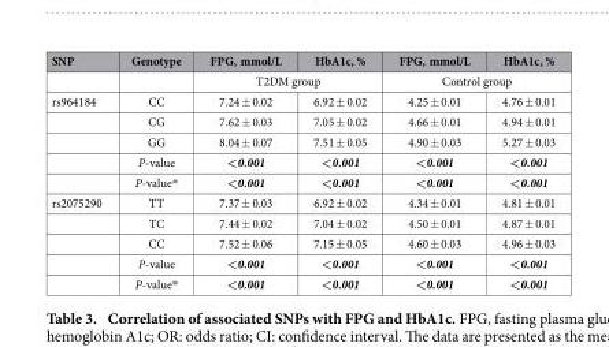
<table><thead><tr><td>SNP</td><td>Genotype</td><td>FPG, mmol/L</td><td>HbA1c, %</td><td>FPG, mmol/L</td><td>HbA1c, %</td></tr></thead><tbody><tr><td></td><td></td><td colspan="2">T2DM group</td><td colspan="2">Control group</td></tr><tr><td rowspan="5">rs964184</td><td>CC</td><td>7.24 ± 0.02</td><td>6.92 ± 0.02</td><td>4.25 ± 0.01</td><td>4.76 ± 0.01</td></tr><tr><td>CG</td><td>7.62 ± 0.03</td><td>7.05 ± 0.02</td><td>4.66 ± 0.01</td><td>4.94 ± 0.01</td></tr><tr><td>GG</td><td>8.04 ± 0.07</td><td>7.51 ± 0.05</td><td>4.90 ± 0.03</td><td>5.27 ± 0.03</td></tr><tr><td>P-value</td><td>&lt;0.001</td><td>&lt;0.001</td><td>&lt;0.001</td><td>&lt;0.001</td></tr><tr><td>P-value*</td><td>&lt;0.001</td><td>&lt;0.001</td><td>&lt;0.001</td><td>&lt;0.001</td></tr><tr><td rowspan="5">rs2075290</td><td>TT</td><td>7.37 ± 0.03</td><td>6.92 ± 0.02</td><td>4.34 ± 0.01</td><td>4.81 ± 0.01</td></tr><tr><td>TC</td><td>7.44 ± 0.02</td><td>7.04 ± 0.02</td><td>4.50 ± 0.01</td><td>4.87 ± 0.01</td></tr><tr><td>CC</td><td>7.52 ± 0.06</td><td>7.15 ± 0.05</td><td>4.60 ± 0.03</td><td>4.96 ± 0.03</td></tr><tr><td>P-value</td><td>&lt;0.001</td><td>&lt;0.001</td><td>&lt;0.001</td><td>&lt;0.001</td></tr><tr><td>P-value*</td><td>&lt;0.001</td><td>&lt;0.001</td><td>&lt;0.001</td><td>&lt;0.001</td></tr></tbody></table>